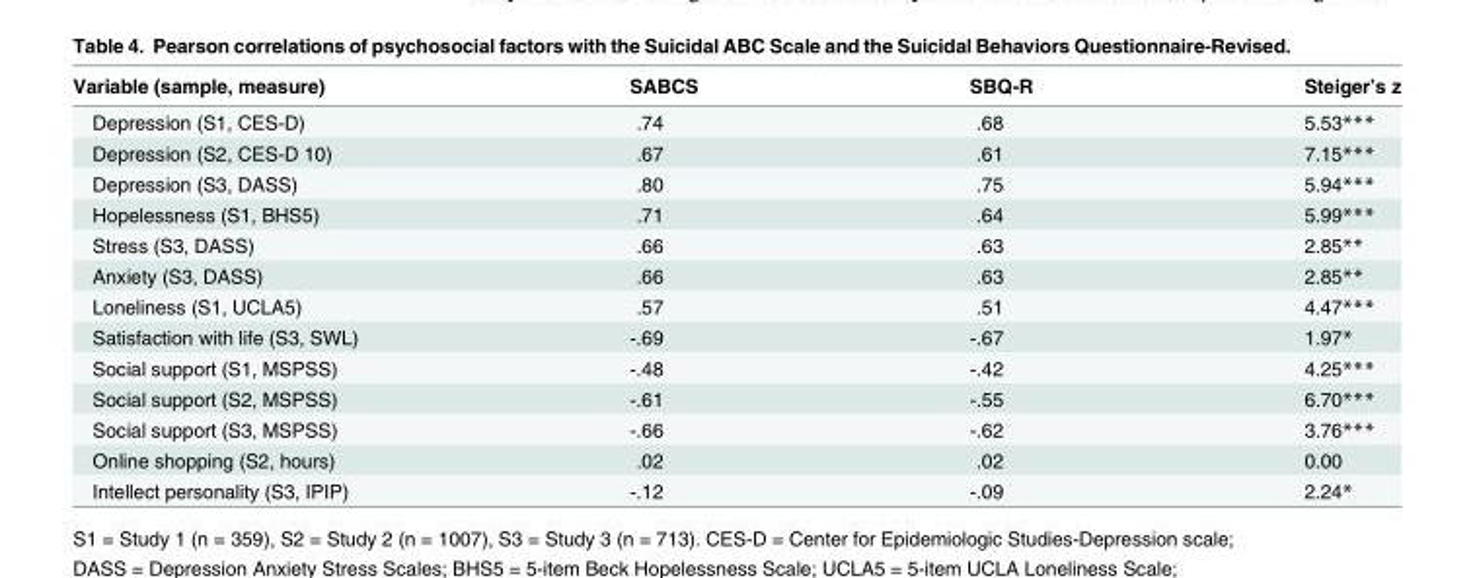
<table><thead><tr><td>Variable (sample, measure)</td><td>SABCS</td><td>SBQ-R</td><td>Steiger’s z</td></tr></thead><tbody><tr><td>Depression (S1, CES-D)</td><td>.74</td><td>.68</td><td>5.53***</td></tr><tr><td>Depression (S2, CES-D 10)</td><td>.67</td><td>.61</td><td>7.15***</td></tr><tr><td>Depression (S3, DASS)</td><td>.80</td><td>.75</td><td>5.94***</td></tr><tr><td>Hopelessness (S1, BHS5)</td><td>.71</td><td>.64</td><td>5.99***</td></tr><tr><td>Stress (S3, DASS)</td><td>.66</td><td>.63</td><td>2.85**</td></tr><tr><td>Anxiety (S3, DASS)</td><td>.66</td><td>.63</td><td>2.85**</td></tr><tr><td>Loneliness (S1, UCLA5)</td><td>.57</td><td>.51</td><td>4.47***</td></tr><tr><td>Satisfaction with life (S3, SWL)</td><td>-.69</td><td>-.67</td><td>1.97*</td></tr><tr><td>Social support (S1, MSPSS)</td><td>-.48</td><td>-.42</td><td>4.25***</td></tr><tr><td>Social support (S2, MSPSS)</td><td>-.61</td><td>-.55</td><td>6.70***</td></tr><tr><td>Social support (S3, MSPSS)</td><td>-.66</td><td>-.62</td><td>3.76***</td></tr><tr><td>Online shopping (S2, hours)</td><td>.02</td><td>.02</td><td>0.00</td></tr><tr><td>Intellect personality (S3, IPIP)</td><td>-.12</td><td>-.09</td><td>2.24*</td></tr></tbody></table>